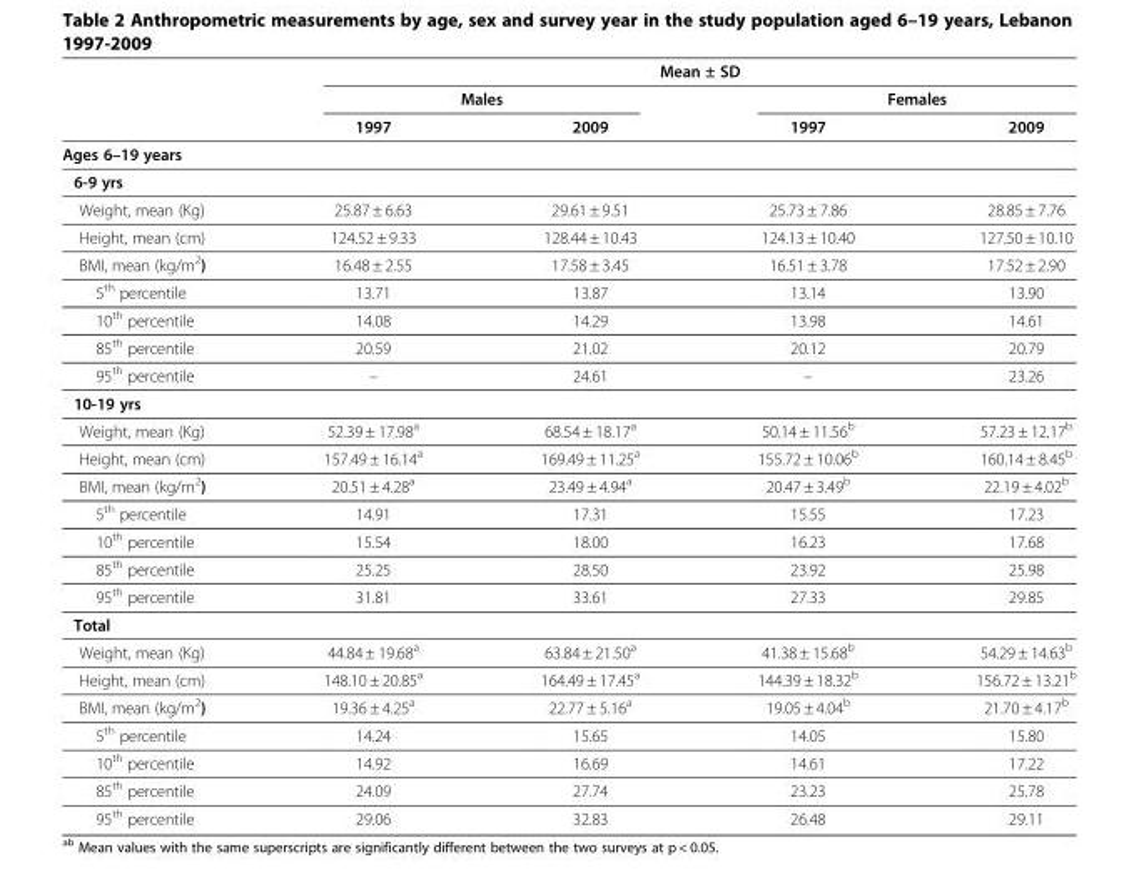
<table><thead><tr><td rowspan="3"></td><td colspan="4">Mean ± SD</td></tr><tr><td colspan="2">Males</td><td colspan="2">Females</td></tr><tr><td>1997</td><td>2009</td><td>1997</td><td>2009</td></tr></thead><tbody><tr><td colspan="5">Ages 6–19 years</td></tr><tr><td colspan="5">6-9 yrs</td></tr><tr><td>Weight, mean (Kg)</td><td>25.87 ± 6.63</td><td>29.61 ± 9.51</td><td>25.73 ± 7.86</td><td>28.85 ± 7.76</td></tr><tr><td>Height, mean (cm)</td><td>124.52 ± 9.33</td><td>128.44 ± 10.43</td><td>124.13 ± 10.40</td><td>127.50 ± 10.10</td></tr><tr><td>BMI, mean (kg/m<sup>2</sup>)</td><td>16.48 ± 2.55</td><td>17.58 ± 3.45</td><td>16.51 ± 3.78</td><td>17.52 ± 2.90</td></tr><tr><td>5<sup>th</sup> percentile</td><td>13.71</td><td>13.87</td><td>13.14</td><td>13.90</td></tr><tr><td>10<sup>th</sup> percentile</td><td>14.08</td><td>14.29</td><td>13.98</td><td>14.61</td></tr><tr><td>85<sup>th</sup> percentile</td><td>20.59</td><td>21.02</td><td>20.12</td><td>20.79</td></tr><tr><td>95<sup>th</sup> percentile</td><td>–</td><td>24.61</td><td>–</td><td>23.26</td></tr><tr><td colspan="5">10-19 yrs</td></tr><tr><td>Weight, mean (Kg)</td><td>52.39 ± 17.98<sup>a</sup></td><td>68.54 ± 18.17<sup>a</sup></td><td>50.14 ± 11.56<sup>b</sup></td><td>57.23 ± 12.17<sup>b</sup></td></tr><tr><td>Height, mean (cm)</td><td>157.49 ± 16.14<sup>a</sup></td><td>169.49 ± 11.25<sup>a</sup></td><td>155.72 ± 10.06<sup>b</sup></td><td>160.14 ± 8.45<sup>b</sup></td></tr><tr><td>BMI, mean (kg/m<sup>2</sup>)</td><td>20.51 ± 4.28<sup>a</sup></td><td>23.49 ± 4.94<sup>a</sup></td><td>20.47 ± 3.49<sup>b</sup></td><td>22.19 ± 4.02<sup>b</sup></td></tr><tr><td>5<sup>th</sup> percentile</td><td>14.91</td><td>17.31</td><td>15.55</td><td>17.23</td></tr><tr><td>10<sup>th</sup> percentile</td><td>15.54</td><td>18.00</td><td>16.23</td><td>17.68</td></tr><tr><td>85<sup>th</sup> percentile</td><td>25.25</td><td>28.50</td><td>23.92</td><td>25.98</td></tr><tr><td>95<sup>th</sup> percentile</td><td>31.81</td><td>33.61</td><td>27.33</td><td>29.85</td></tr><tr><td colspan="5">Total</td></tr><tr><td>Weight, mean (Kg)</td><td>44.84 ± 19.68<sup>a</sup></td><td>63.84 ± 21.50<sup>a</sup></td><td>41.38 ± 15.68<sup>b</sup></td><td>54.29 ± 14.63<sup>b</sup></td></tr><tr><td>Height, mean (cm)</td><td>148.10 ± 20.85<sup>a</sup></td><td>164.49 ± 17.45<sup>a</sup></td><td>144.39 ± 18.32<sup>b</sup></td><td>156.72 ± 13.21<sup>b</sup></td></tr><tr><td>BMI, mean (kg/m<sup>2</sup>)</td><td>19.36 ± 4.25<sup>a</sup></td><td>22.77 ± 5.16<sup>a</sup></td><td>19.05 ± 4.04<sup>b</sup></td><td>21.70 ± 4.17<sup>b</sup></td></tr><tr><td>5<sup>th</sup> percentile</td><td>14.24</td><td>15.65</td><td>14.05</td><td>15.80</td></tr><tr><td>10<sup>th</sup> percentile</td><td>14.92</td><td>16.69</td><td>14.61</td><td>17.22</td></tr><tr><td>85<sup>th</sup> percentile</td><td>24.09</td><td>27.74</td><td>23.23</td><td>25.78</td></tr><tr><td>95<sup>th</sup> percentile</td><td>29.06</td><td>32.83</td><td>26.48</td><td>29.11</td></tr></tbody></table>